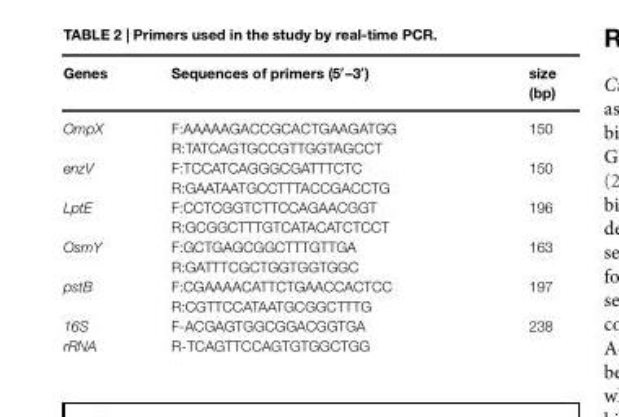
<table><thead><tr><td>Genes</td><td>Sequences of primers (5′–3′)</td><td>size (bp)</td></tr></thead><tbody><tr><td rowspan="2">OmpX</td><td>F:AAAAAGACCGCACTGAAGATGG</td><td>150</td></tr><tr><td>R:TATCAGTGCCGTTGGTAGCCT</td><td></td></tr><tr><td rowspan="2">enzV</td><td>F:TCCATCAGGGCGATTTCTC</td><td>150</td></tr><tr><td>R:GAATAATGCCTTTACCGACCTG</td><td></td></tr><tr><td rowspan="2">LptE</td><td>F:CCTCGGTCTTCCAGAACGGT</td><td>196</td></tr><tr><td>R:GCGGCTTTGTCATACATCTCCT</td><td></td></tr><tr><td rowspan="2">OsmY</td><td>F:GCTGAGCGGCTTTGTTGA</td><td>163</td></tr><tr><td>R:GATTTCGCTGGTGGTGGC</td><td></td></tr><tr><td rowspan="2">pstB</td><td>F:CGAAAACATTCTGAACCACTCC</td><td>197</td></tr><tr><td>R:CGTTCCATAATGCGGCTTTG</td><td></td></tr><tr><td>16S</td><td>F-ACGAGTGGCGGACGGTGA</td><td>238</td></tr><tr><td>rRNA</td><td>R-TCAGTTCCAGTGTGGCTGG</td><td></td></tr></tbody></table>